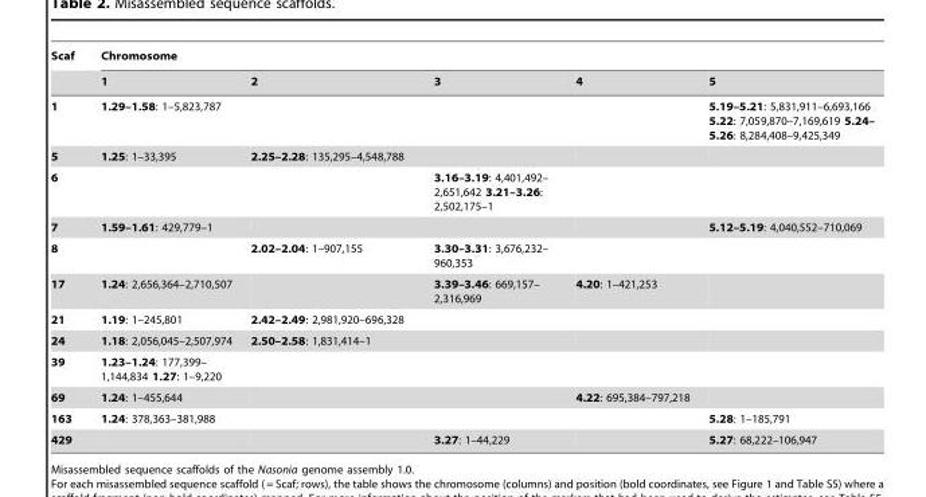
<table><thead><tr><td rowspan="2">Scaf</td><td colspan="5">Chromosome</td></tr><tr><td>1</td><td>2</td><td>3</td><td>4</td><td>5</td></tr></thead><tbody><tr><td>1</td><td>1.29–1.58: 1–5,823,787</td><td></td><td></td><td></td><td>5.19–5.21: 5,831,911–6,693,166 5.22: 7,059,870–7,169,619 5.24– 5.26: 8,284,408–9,425,349</td></tr><tr><td>5</td><td>1.25: 1–33,395</td><td>2.25–2.28: 135,295–4,548,788</td><td></td><td></td><td></td></tr><tr><td>6</td><td></td><td></td><td>3.16–3.19: 4,401,492– 2,651,642 3.21–3.26: 2,502,175–1</td><td></td><td></td></tr><tr><td>7</td><td>1.59–1.61: 429,779–1</td><td></td><td></td><td></td><td>5.12–5.19: 4,040,552–710,069</td></tr><tr><td>8</td><td></td><td>2.02–2.04: 1–907,155</td><td>3.30–3.31: 3,676,232– 960,353</td><td></td><td></td></tr><tr><td>17</td><td>1.24: 2,656,364–2,710,507</td><td></td><td>3.39–3.46: 669,157– 2,316,969</td><td>4.20: 1–421,253</td><td></td></tr><tr><td>21</td><td>1.19: 1–245,801</td><td>2.42–2.49: 2,981,920–696,328</td><td></td><td></td><td></td></tr><tr><td>24</td><td>1.18: 2,056,045–2,507,974</td><td>2.50–2.58: 1,831,414–1</td><td></td><td></td><td></td></tr><tr><td>39</td><td>1.23–1.24: 177,399– 1,144,834 1.27: 1–9,220</td><td></td><td></td><td></td><td></td></tr><tr><td>69</td><td>1.24: 1–455,644</td><td></td><td></td><td>4.22: 695,384–797,218</td><td></td></tr><tr><td>163</td><td>1.24: 378,363–381,988</td><td></td><td></td><td></td><td>5.28: 1–185,791</td></tr><tr><td>429</td><td></td><td></td><td>3.27: 1–44,229</td><td></td><td>5.27: 68,222–106,947</td></tr></tbody></table>